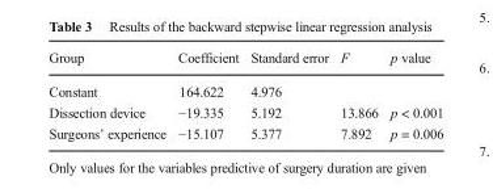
<table><thead><tr><td>Group</td><td>Coefficient</td><td>Standard error</td><td>F</td><td>p value</td></tr></thead><tbody><tr><td>Constant</td><td>164.622</td><td>4.976</td><td></td><td></td></tr><tr><td>Dissection device</td><td>−19.335</td><td>5.192</td><td>13.866</td><td>p &lt; 0.001</td></tr><tr><td>Surgeons’ experience</td><td>−15.107</td><td>5.377</td><td>7.892</td><td>p = 0.006</td></tr></tbody></table>